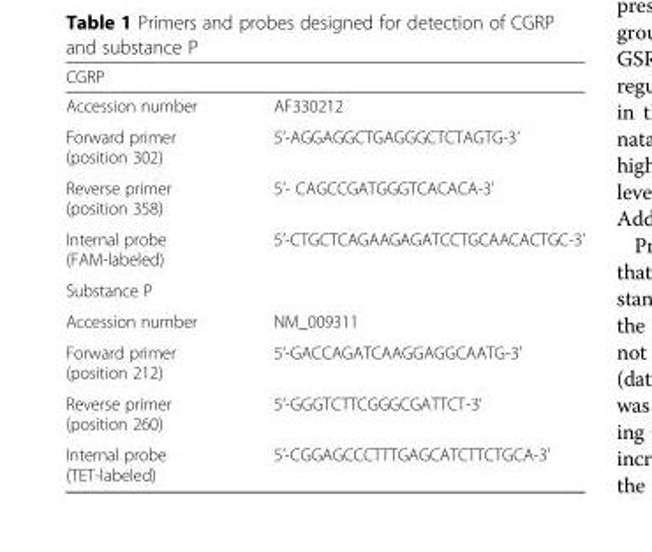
<table><thead><tr><td colspan="2">CGRP</td></tr><tr><td>Accession number</td><td>AF330212</td></tr></thead><tbody><tr><td>Forward primer (position 302)</td><td>5’-AGGAGGCTGAGGGCTCTAGTG-3’</td></tr><tr><td>Reverse primer (position 358)</td><td>5’- CAGCCGATGGGTCACACA-3’</td></tr><tr><td>Internal probe (FAM-labeled)</td><td>5’-CTGCTCAGAAGAGATCCTGCAACACTGC-3’</td></tr><tr><td colspan="2">Substance P</td></tr><tr><td>Accession number</td><td>NM_009311</td></tr><tr><td>Forward primer (position 212)</td><td>5’-GACCAGATCAAGGAGGCAATG-3’</td></tr><tr><td>Reverse primer (position 260)</td><td>5’-GGGTCTTCGGGCGATTCT-3’</td></tr><tr><td>Internal probe (TET-labeled)</td><td>5’-CGGAGCCCTTTGAGCATCTTCTGCA-3’</td></tr></tbody></table>